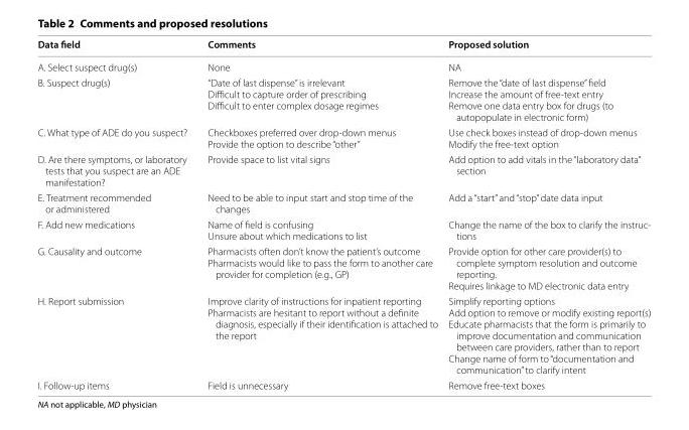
<table><thead><tr><td>Data field</td><td>Comments</td><td>Proposed solution</td></tr></thead><tbody><tr><td>A. Select suspect drug(s)</td><td>None</td><td>NA</td></tr><tr><td>B. Suspect drug(s)</td><td>“Date of last dispense” is irrelevant Difficult to capture order of prescribing Difficult to enter complex dosage regimes</td><td>Remove the “date of last dispense” field Increase the amount of free-text entry Remove one data entry box for drugs (to autopopulate in electronic form)</td></tr><tr><td>C. What type of ADE do you suspect?</td><td>Checkboxes preferred over drop-down menus Provide the option to describe “other”</td><td>Use check boxes instead of drop-down menus Modify the free-text option</td></tr><tr><td>D. Are there symptoms, or laboratory tests that you suspect are an ADE manifestation?</td><td>Provide space to list vital signs</td><td>Add option to add vitals in the “laboratory data” section</td></tr><tr><td>E. Treatment recommended or administered</td><td>Need to be able to input start and stop time of the changes</td><td>Add a “start” and “stop” date data input</td></tr><tr><td>F. Add new medications</td><td>Name of field is confusing Unsure about which medications to list</td><td>Change the name of the box to clarify the instruc- tions</td></tr><tr><td>G. Causality and outcome</td><td>Pharmacists often don’t know the patient’s outcome Pharmacists would like to pass the form to another care provider for completion (e.g., GP)</td><td>Provide option for other care provider(s) to complete symptom resolution and outcome reporting. Requires linkage to MD electronic data entry</td></tr><tr><td>H. Report submission</td><td>Improve clarity of instructions for inpatient reporting Pharmacists are hesitant to report without a definite diagnosis, especially if their identification is attached to the report</td><td>Simplify reporting options Add option to remove or modify existing report(s) Educate pharmacists that the form is primarily to improve documentation and communication between care providers, rather than to report Change name of form to “documentation and communication” to clarify intent</td></tr><tr><td>I. Follow-up items</td><td>Field is unnecessary</td><td>Remove free-text boxes</td></tr></tbody></table>